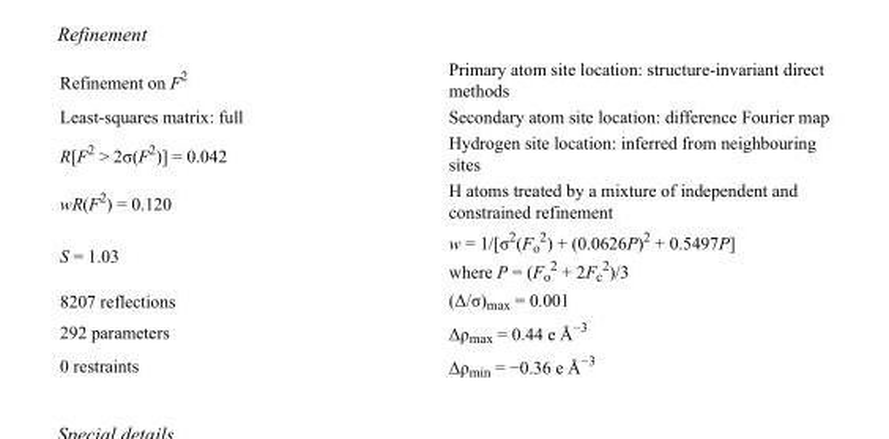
<table><tbody><tr><td>Refinement on F<sup>2</sup></td><td>Primary atom site location: structure-invariant direct methods</td></tr><tr><td>Least-squares matrix: full</td><td>Secondary atom site location: difference Fourier map</td></tr><tr><td>R[F<sup>2</sup> &gt; 2σ(F<sup>2</sup>)] = 0.042</td><td>Hydrogen site location: inferred from neighbouring sites</td></tr><tr><td>wR(F<sup>2</sup>) = 0.120</td><td>H atoms treated by a mixture of independent and constrained refinement</td></tr><tr><td>S = 1.03</td><td>w = 1/[σ<sup>2</sup>(F<sub>o</sub> <sup>2</sup>) + (0.0626P)<sup>2</sup> + 0.5497P] where P = (F<sub>o</sub> <sup>2</sup> + 2F<sub>c</sub> <sup>2</sup>)/3</td></tr><tr><td>8207 reflections</td><td>(Δ/σ)<sub>max</sub> = 0.001</td></tr><tr><td>292 parameters</td><td>Δρ<sub>max</sub> = 0.44 e Å<sup>−3</sup></td></tr><tr><td>0 restraints</td><td>Δρ<sub>min</sub> = −0.36 e Å<sup>−3</sup></td></tr></tbody></table>